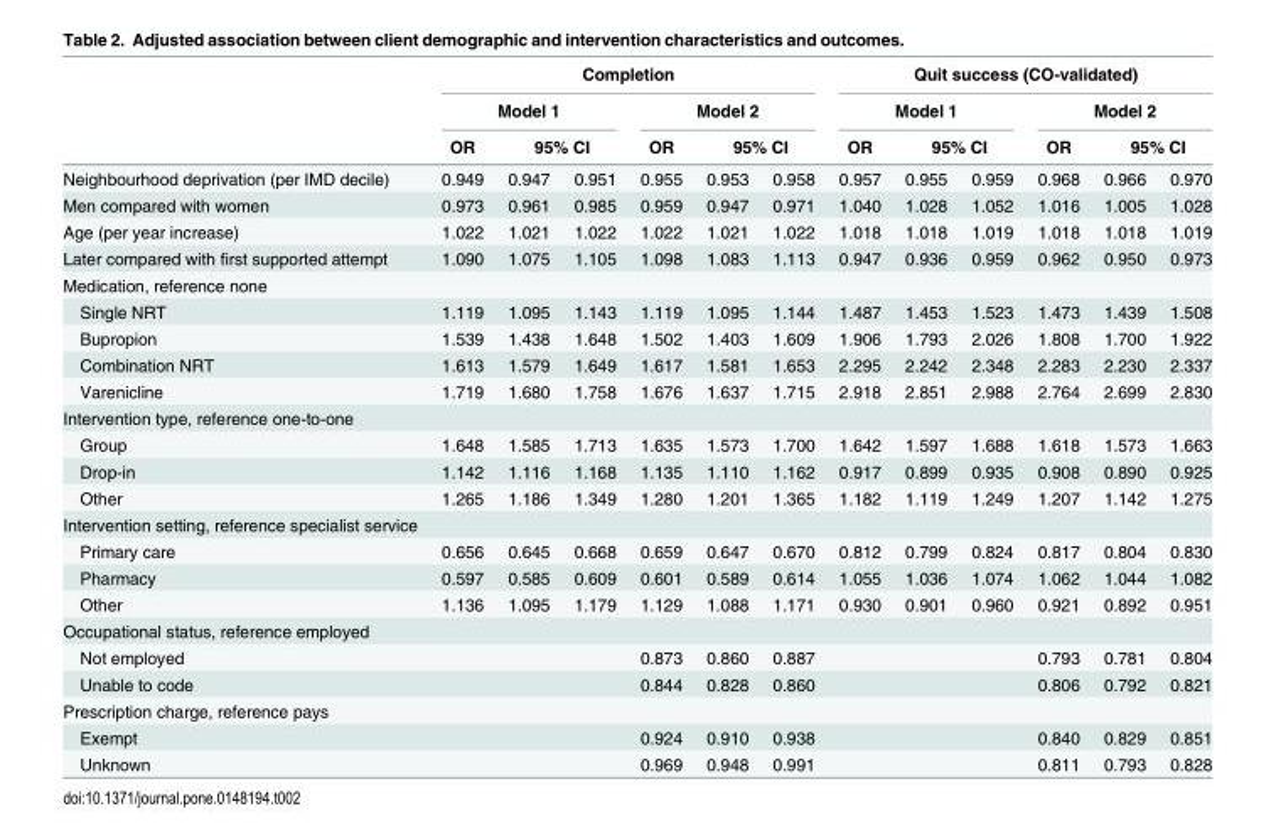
<table><thead><tr><td rowspan="4">Neighbourhood deprivation (per IMD decile)</td><td colspan="6">Completion</td><td colspan="6">Quit success (CO-validated)</td></tr><tr><td colspan="3">Model 1</td><td colspan="3">Model 2</td><td colspan="3">Model 1</td><td colspan="3">Model 2</td></tr><tr><td rowspan="2">OR 0.949</td><td colspan="2">95% CI</td><td rowspan="2">OR 0.955</td><td colspan="2">95% CI</td><td rowspan="2">OR 0.957</td><td colspan="2">95% CI</td><td rowspan="2">OR 0.968</td><td colspan="2">95% CI</td></tr><tr><td>0.947</td><td>0.951</td><td>0.953</td><td>0.958</td><td>0.955</td><td>0.959</td><td>0.966</td><td>0.970</td></tr></thead><tbody><tr><td>Men compared with women</td><td>0.973</td><td>0.961</td><td>0.985</td><td>0.959</td><td>0.947</td><td>0.971</td><td>1.040</td><td>1.028</td><td>1.052</td><td>1.016</td><td>1.005</td><td>1.028</td></tr><tr><td>Age (per year increase)</td><td>1.022</td><td>1.021</td><td>1.022</td><td>1.022</td><td>1.021</td><td>1.022</td><td>1.018</td><td>1.018</td><td>1.019</td><td>1.018</td><td>1.018</td><td>1.019</td></tr><tr><td>Later compared with first supported attempt</td><td>1.090</td><td>1.075</td><td>1.105</td><td>1.098</td><td>1.083</td><td>1.113</td><td>0.947</td><td>0.936</td><td>0.959</td><td>0.962</td><td>0.950</td><td>0.973</td></tr><tr><td colspan="13">Medication, reference none</td></tr><tr><td>Single NRT</td><td>1.119</td><td>1.095</td><td>1.143</td><td>1.119</td><td>1.095</td><td>1.144</td><td>1.487</td><td>1.453</td><td>1.523</td><td>1.473</td><td>1.439</td><td>1.508</td></tr><tr><td>Bupropion</td><td>1.539</td><td>1.438</td><td>1.648</td><td>1.502</td><td>1.403</td><td>1.609</td><td>1.906</td><td>1.793</td><td>2.026</td><td>1.808</td><td>1.700</td><td>1.922</td></tr><tr><td>Combination NRT</td><td>1.613</td><td>1.579</td><td>1.649</td><td>1.617</td><td>1.581</td><td>1.653</td><td>2.295</td><td>2.242</td><td>2.348</td><td>2.283</td><td>2.230</td><td>2.337</td></tr><tr><td>Varenicline</td><td>1.719</td><td>1.680</td><td>1.758</td><td>1.676</td><td>1.637</td><td>1.715</td><td>2.918</td><td>2.851</td><td>2.988</td><td>2.764</td><td>2.699</td><td>2.830</td></tr><tr><td colspan="13">Intervention type, reference one-to-one</td></tr><tr><td>Group</td><td>1.648</td><td>1.585</td><td>1.713</td><td>1.635</td><td>1.573</td><td>1.700</td><td>1.642</td><td>1.597</td><td>1.688</td><td>1.618</td><td>1.573</td><td>1.663</td></tr><tr><td>Drop-in</td><td>1.142</td><td>1.116</td><td>1.168</td><td>1.135</td><td>1.110</td><td>1.162</td><td>0.917</td><td>0.899</td><td>0.935</td><td>0.908</td><td>0.890</td><td>0.925</td></tr><tr><td>Other</td><td>1.265</td><td>1.186</td><td>1.349</td><td>1.280</td><td>1.201</td><td>1.365</td><td>1.182</td><td>1.119</td><td>1.249</td><td>1.207</td><td>1.142</td><td>1.275</td></tr><tr><td colspan="13">Intervention setting, reference specialist service</td></tr><tr><td>Primary care</td><td>0.656</td><td>0.645</td><td>0.668</td><td>0.659</td><td>0.647</td><td>0.670</td><td>0.812</td><td>0.799</td><td>0.824</td><td>0.817</td><td>0.804</td><td>0.830</td></tr><tr><td>Pharmacy</td><td>0.597</td><td>0.585</td><td>0.609</td><td>0.601</td><td>0.589</td><td>0.614</td><td>1.055</td><td>1.036</td><td>1.074</td><td>1.062</td><td>1.044</td><td>1.082</td></tr><tr><td>Other</td><td>1.136</td><td>1.095</td><td>1.179</td><td>1.129</td><td>1.088</td><td>1.171</td><td>0.930</td><td>0.901</td><td>0.960</td><td>0.921</td><td>0.892</td><td>0.951</td></tr><tr><td colspan="13">Occupational status, reference employed</td></tr><tr><td>Not employed</td><td></td><td></td><td></td><td>0.873</td><td>0.860</td><td>0.887</td><td></td><td></td><td></td><td>0.793</td><td>0.781</td><td>0.804</td></tr><tr><td>Unable to code</td><td></td><td></td><td></td><td>0.844</td><td>0.828</td><td>0.860</td><td></td><td></td><td></td><td>0.806</td><td>0.792</td><td>0.821</td></tr><tr><td colspan="13">Prescription charge, reference pays</td></tr><tr><td>Exempt</td><td></td><td></td><td></td><td>0.924</td><td>0.910</td><td>0.938</td><td></td><td></td><td></td><td>0.840</td><td>0.829</td><td>0.851</td></tr><tr><td>Unknown</td><td></td><td></td><td></td><td>0.969</td><td>0.948</td><td>0.991</td><td></td><td></td><td></td><td>0.811</td><td>0.793</td><td>0.828</td></tr></tbody></table>